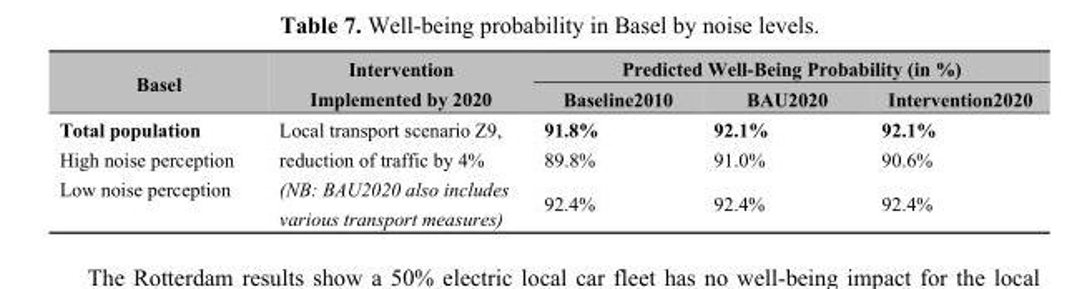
<table><thead><tr><td rowspan="2">Basel</td><td rowspan="2">Intervention Implemented by 2020</td><td colspan="3">Predicted Well-Being Probability (in %)</td></tr><tr><td>Baseline2010</td><td>BAU2020</td><td>Intervention2020</td></tr></thead><tbody><tr><td>Total population</td><td rowspan="3">Local transport scenario Z9, reduction of traffic by 4% (NB: BAU2020 also includes various transport measures)</td><td>91.8%</td><td>92.1%</td><td>92.1%</td></tr><tr><td>High noise perception</td><td>89.8%</td><td>91.0%</td><td>90.6%</td></tr><tr><td>Low noise perception</td><td>92.4%</td><td>92.4%</td><td>92.4%</td></tr></tbody></table>